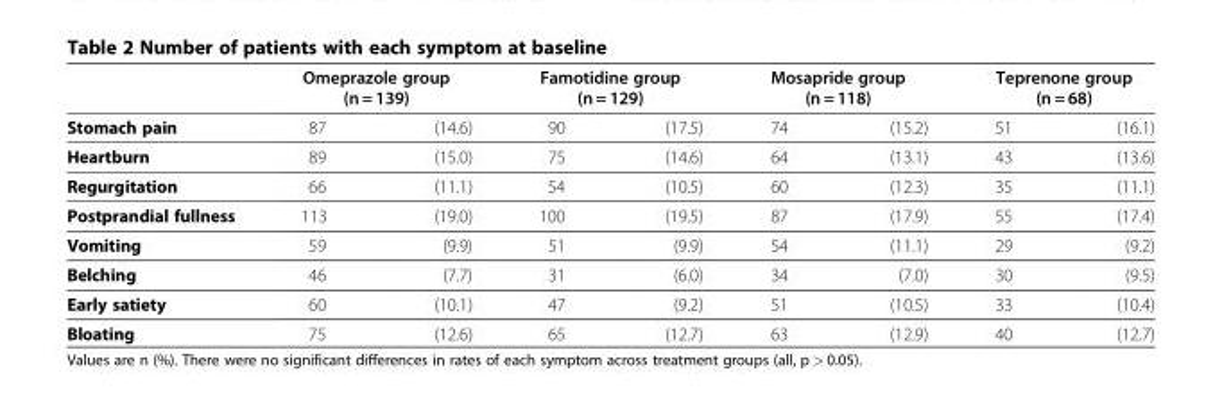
<table><thead><tr><td rowspan="2">Stomach pain</td><td colspan="2">Omeprazole group (n = 139)</td><td colspan="2">Famotidine group (n = 129)</td><td colspan="2">Mosapride group (n = 118)</td><td colspan="2">Teprenone group (n = 68)</td></tr><tr><td>87</td><td>(14.6)</td><td>90</td><td>(17.5)</td><td>74</td><td>(15.2)</td><td>51</td><td>(16.1)</td></tr></thead><tbody><tr><td>Heartburn</td><td>89</td><td>(15.0)</td><td>75</td><td>(14.6)</td><td>64</td><td>(13.1)</td><td>43</td><td>(13.6)</td></tr><tr><td>Regurgitation</td><td>66</td><td>(11.1)</td><td>54</td><td>(10.5)</td><td>60</td><td>(12.3)</td><td>35</td><td>(11.1)</td></tr><tr><td>Postprandial fullness</td><td>113</td><td>(19.0)</td><td>100</td><td>(19.5)</td><td>87</td><td>(17.9)</td><td>55</td><td>(17.4)</td></tr><tr><td>Vomiting</td><td>59</td><td>(9.9)</td><td>51</td><td>(9.9)</td><td>54</td><td>(11.1)</td><td>29</td><td>(9.2)</td></tr><tr><td>Belching</td><td>46</td><td>(7.7)</td><td>31</td><td>(6.0)</td><td>34</td><td>(7.0)</td><td>30</td><td>(9.5)</td></tr><tr><td>Early satiety</td><td>60</td><td>(10.1)</td><td>47</td><td>(9.2)</td><td>51</td><td>(10.5)</td><td>33</td><td>(10.4)</td></tr><tr><td>Bloating</td><td>75</td><td>(12.6)</td><td>65</td><td>(12.7)</td><td>63</td><td>(12.9)</td><td>40</td><td>(12.7)</td></tr></tbody></table>